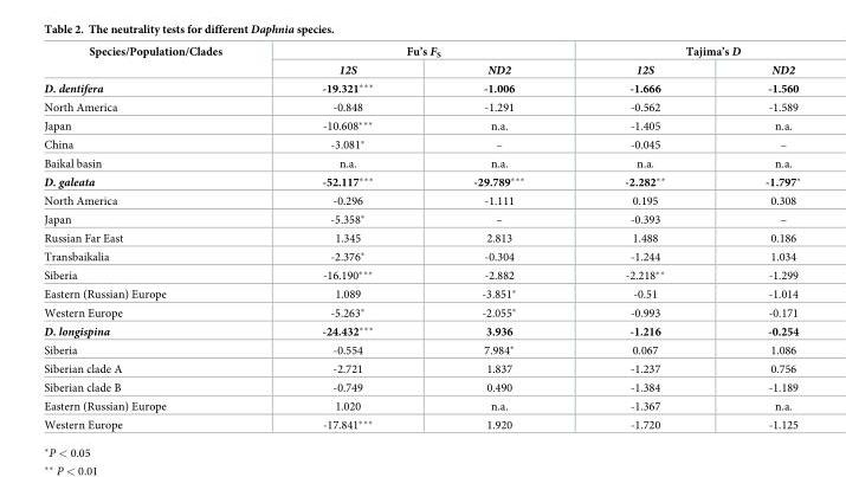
<table><thead><tr><td rowspan="2">Species/Population/Clades</td><td colspan="2">Fu’s F<sub>S</sub></td><td colspan="2">Tajima’s D</td></tr><tr><td>12S</td><td>ND2</td><td>12S</td><td>ND2</td></tr></thead><tbody><tr><td>D. dentifera</td><td>-19.321***</td><td>-1.006</td><td>-1.666</td><td>-1.560</td></tr><tr><td>North America</td><td>-0.848</td><td>-1.291</td><td>-0.562</td><td>-1.589</td></tr><tr><td>Japan</td><td>-10.608***</td><td>n.a.</td><td>-1.405</td><td>n.a.</td></tr><tr><td>China</td><td>-3.081*</td><td>–</td><td>-0.045</td><td>–</td></tr><tr><td>Baikal basin</td><td>n.a.</td><td>n.a.</td><td>n.a.</td><td>n.a.</td></tr><tr><td>D. galeata</td><td>-52.117***</td><td>-29.789***</td><td>-2.282**</td><td>-1.797*</td></tr><tr><td>North America</td><td>-0.296</td><td>-1.111</td><td>0.195</td><td>0.308</td></tr><tr><td>Japan</td><td>-5.358*</td><td>–</td><td>-0.393</td><td>–</td></tr><tr><td>Russian Far East</td><td>1.345</td><td>2.813</td><td>1.488</td><td>0.186</td></tr><tr><td>Transbaikalia</td><td>-2.376*</td><td>-0.304</td><td>-1.244</td><td>1.034</td></tr><tr><td>Siberia</td><td>-16.190***</td><td>-2.882</td><td>-2.218**</td><td>-1.299</td></tr><tr><td>Eastern (Russian) Europe</td><td>1.089</td><td>-3.851*</td><td>-0.51</td><td>-1.014</td></tr><tr><td>Western Europe</td><td>-5.263*</td><td>-2.055*</td><td>-0.993</td><td>-0.171</td></tr><tr><td>D. longispina</td><td>-24.432***</td><td>3.936</td><td>-1.216</td><td>-0.254</td></tr><tr><td>Siberia</td><td>-0.554</td><td>7.984*</td><td>0.067</td><td>1.086</td></tr><tr><td>Siberian clade A</td><td>-2.721</td><td>1.837</td><td>-1.237</td><td>0.756</td></tr><tr><td>Siberian clade B</td><td>-0.749</td><td>0.490</td><td>-1.384</td><td>-1.189</td></tr><tr><td>Eastern (Russian) Europe</td><td>1.020</td><td>n.a.</td><td>-1.367</td><td>n.a.</td></tr><tr><td>Western Europe</td><td>-17.841***</td><td>1.920</td><td>-1.720</td><td>-1.125</td></tr></tbody></table>